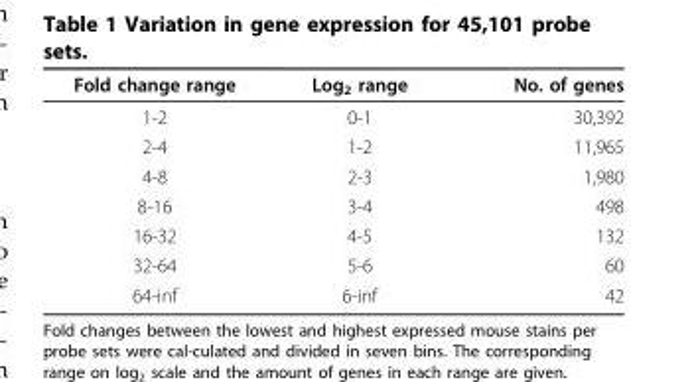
<table><thead><tr><td>Fold change range</td><td>Log<sub>2</sub> range</td><td>No. of genes</td></tr></thead><tbody><tr><td>1-2</td><td>0-1</td><td>30,392</td></tr><tr><td>2-4</td><td>1-2</td><td>11,965</td></tr><tr><td>4-8</td><td>2-3</td><td>1,980</td></tr><tr><td>8-16</td><td>3-4</td><td>498</td></tr><tr><td>16-32</td><td>4-5</td><td>132</td></tr><tr><td>32-64</td><td>5-6</td><td>60</td></tr><tr><td>64-inf</td><td>6-inf</td><td>42</td></tr></tbody></table>